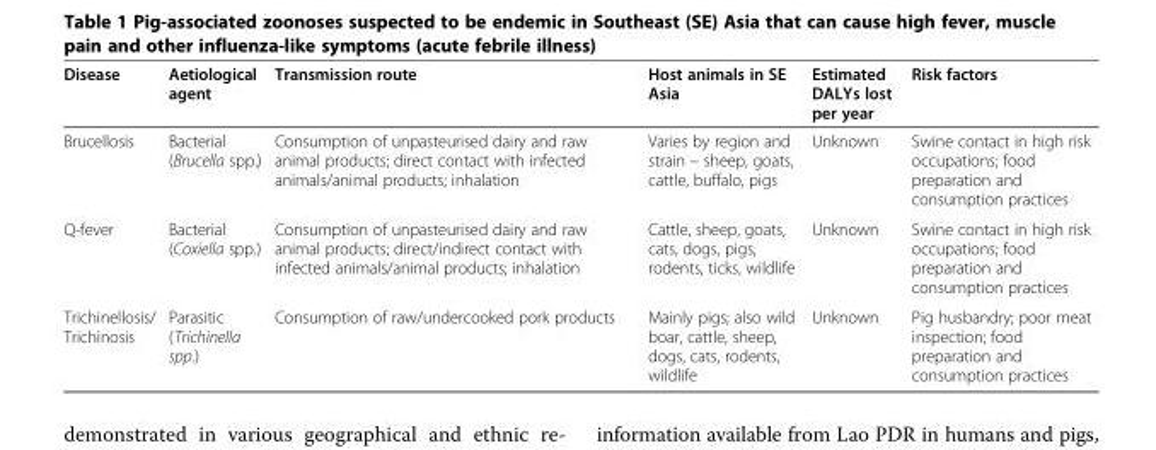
<table><thead><tr><td>Disease</td><td>Aetiological agent</td><td>Transmission route</td><td>Host animals in SE Asia</td><td>Estimated DALYs lost per year</td><td>Risk factors</td></tr></thead><tbody><tr><td>Brucellosis</td><td>Bacterial (Brucella spp.)</td><td>Consumption of unpasteurised dairy and raw animal products; direct contact with infected animals/animal products; inhalation</td><td>Varies by region and strain – sheep, goats, cattle, buffalo, pigs</td><td>Unknown</td><td>Swine contact in high risk occupations; food preparation and consumption practices</td></tr><tr><td>Q-fever</td><td>Bacterial (Coxiella spp.)</td><td>Consumption of unpasteurised dairy and raw animal products; direct/indirect contact with infected animals/animal products; inhalation</td><td>Cattle, sheep, goats, cats, dogs, pigs, rodents, ticks, wildlife</td><td>Unknown</td><td>Swine contact in high risk occupations; food preparation and consumption practices</td></tr><tr><td>Trichinellosis/ Trichinosis</td><td>Parasitic (Trichinella spp.)</td><td>Consumption of raw/undercooked pork products</td><td>Mainly pigs; also wild boar, cattle, sheep, dogs, cats, rodents, wildlife</td><td>Unknown</td><td>Pig husbandry; poor meat inspection; food preparation and consumption practices</td></tr></tbody></table>